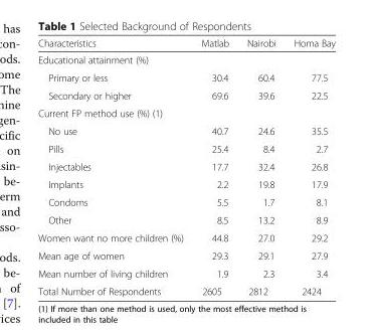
<table><thead><tr><td>Characteristics</td><td>Matlab</td><td>Nairobi</td><td>Homa Bay</td></tr></thead><tbody><tr><td colspan="4">Educational attainment (%)</td></tr><tr><td>Primary or less</td><td>30.4</td><td>60.4</td><td>77.5</td></tr><tr><td>Secondary or higher</td><td>69.6</td><td>39.6</td><td>22.5</td></tr><tr><td colspan="4">Current FP method use (%) (1)</td></tr><tr><td>No use</td><td>40.7</td><td>24.6</td><td>35.5</td></tr><tr><td>Pills</td><td>25.4</td><td>8.4</td><td>2.7</td></tr><tr><td>Injectables</td><td>17.7</td><td>32.4</td><td>26.8</td></tr><tr><td>Implants</td><td>2.2</td><td>19.8</td><td>17.9</td></tr><tr><td>Condoms</td><td>5.5</td><td>1.7</td><td>8.1</td></tr><tr><td>Other</td><td>8.5</td><td>13.2</td><td>8.9</td></tr><tr><td>Women want no more children (%)</td><td>44.8</td><td>27.0</td><td>29.2</td></tr><tr><td>Mean age of women</td><td>29.3</td><td>29.1</td><td>27.9</td></tr><tr><td>Mean number of living children</td><td>1.9</td><td>2.3</td><td>3.4</td></tr><tr><td>Total Number of Respondents</td><td>2605</td><td>2812</td><td>2424</td></tr></tbody></table>